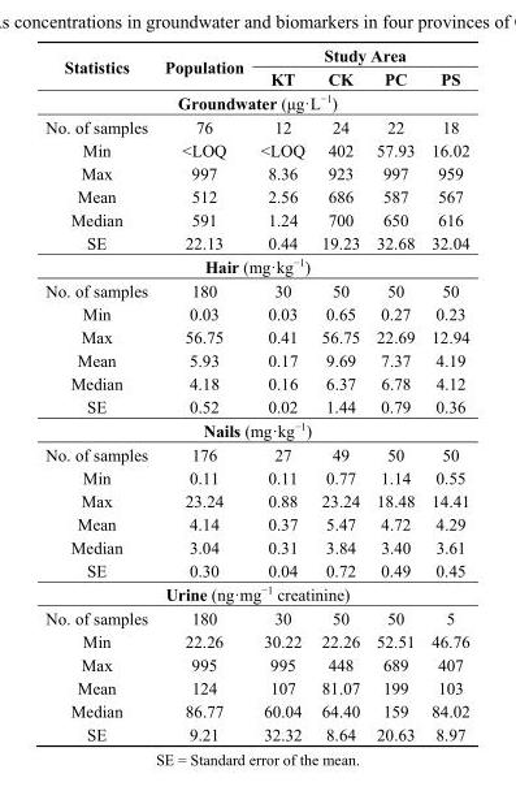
<table><thead><tr><td rowspan="2">Statistics</td><td rowspan="2">Population</td><td colspan="4">Study Area</td></tr><tr><td>KT</td><td>CK</td><td>PC</td><td>PS</td></tr></thead><tbody><tr><td colspan="6">Groundwater (μg·L<sup>−1</sup>)</td></tr><tr><td>No. of samples</td><td>76</td><td>12</td><td>24</td><td>22</td><td>18</td></tr><tr><td>Min</td><td>&lt;LOQ</td><td>&lt;LOQ</td><td>402</td><td>57.93</td><td>16.02</td></tr><tr><td>Max</td><td>997</td><td>8.36</td><td>923</td><td>997</td><td>959</td></tr><tr><td>Mean</td><td>512</td><td>2.56</td><td>686</td><td>587</td><td>567</td></tr><tr><td>Median</td><td>591</td><td>1.24</td><td>700</td><td>650</td><td>616</td></tr><tr><td>SE</td><td>22.13</td><td>0.44</td><td>19.23</td><td>32.68</td><td>32.04</td></tr><tr><td colspan="6">Hair (mg·kg<sup>−1</sup>)</td></tr><tr><td>No. of samples</td><td>180</td><td>30</td><td>50</td><td>50</td><td>50</td></tr><tr><td>Min</td><td>0.03</td><td>0.03</td><td>0.65</td><td>0.27</td><td>0.23</td></tr><tr><td>Max</td><td>56.75</td><td>0.41</td><td>56.75</td><td>22.69</td><td>12.94</td></tr><tr><td>Mean</td><td>5.93</td><td>0.17</td><td>9.69</td><td>7.37</td><td>4.19</td></tr><tr><td>Median</td><td>4.18</td><td>0.16</td><td>6.37</td><td>6.78</td><td>4.12</td></tr><tr><td>SE</td><td>0.52</td><td>0.02</td><td>1.44</td><td>0.79</td><td>0.36</td></tr><tr><td colspan="6">Nails (mg·kg<sup>−1</sup>)</td></tr><tr><td>No. of samples</td><td>176</td><td>27</td><td>49</td><td>50</td><td>50</td></tr><tr><td>Min</td><td>0.11</td><td>0.11</td><td>0.77</td><td>1.14</td><td>0.55</td></tr><tr><td>Max</td><td>23.24</td><td>0.88</td><td>23.24</td><td>18.48</td><td>14.41</td></tr><tr><td>Mean</td><td>4.14</td><td>0.37</td><td>5.47</td><td>4.72</td><td>4.29</td></tr><tr><td>Median</td><td>3.04</td><td>0.31</td><td>3.84</td><td>3.40</td><td>3.61</td></tr><tr><td>SE</td><td>0.30</td><td>0.04</td><td>0.72</td><td>0.49</td><td>0.45</td></tr><tr><td colspan="6">Urine (ng·mg<sup>−1</sup> creatinine)</td></tr><tr><td>No. of samples</td><td>180</td><td>30</td><td>50</td><td>50</td><td>5</td></tr><tr><td>Min</td><td>22.26</td><td>30.22</td><td>22.26</td><td>52.51</td><td>46.76</td></tr><tr><td>Max</td><td>995</td><td>995</td><td>448</td><td>689</td><td>407</td></tr><tr><td>Mean</td><td>124</td><td>107</td><td>81.07</td><td>199</td><td>103</td></tr><tr><td>Median</td><td>86.77</td><td>60.04</td><td>64.40</td><td>159</td><td>84.02</td></tr><tr><td>SE</td><td>9.21</td><td>32.32</td><td>8.64</td><td>20.63</td><td>8.97</td></tr></tbody></table>